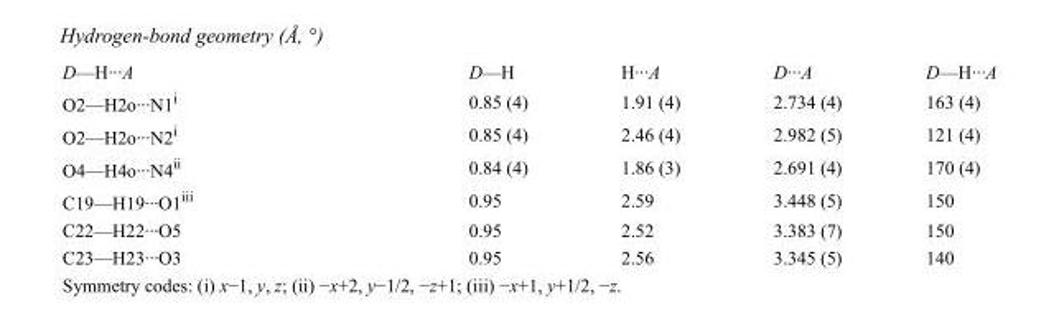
<table><tbody><tr><td>D—H···A</td><td>D—H</td><td>H···A</td><td>D···A</td><td>D—H···A</td></tr><tr><td>O2—H2o···N1<sup>i</sup></td><td>0.85 (4)</td><td>1.91 (4)</td><td>2.734 (4)</td><td>163 (4)</td></tr><tr><td>O2—H2o···N2<sup>i</sup></td><td>0.85 (4)</td><td>2.46 (4)</td><td>2.982 (5)</td><td>121 (4)</td></tr><tr><td>O4—H4o···N4<sup>ii</sup></td><td>0.84 (4)</td><td>1.86 (3)</td><td>2.691 (4)</td><td>170 (4)</td></tr><tr><td>C19—H19···O1<sup>iii</sup></td><td>0.95</td><td>2.59</td><td>3.448 (5)</td><td>150</td></tr><tr><td>C22—H22···O5</td><td>0.95</td><td>2.52</td><td>3.383 (7)</td><td>150</td></tr><tr><td>C23—H23···O3</td><td>0.95</td><td>2.56</td><td>3.345 (5)</td><td>140</td></tr></tbody></table>